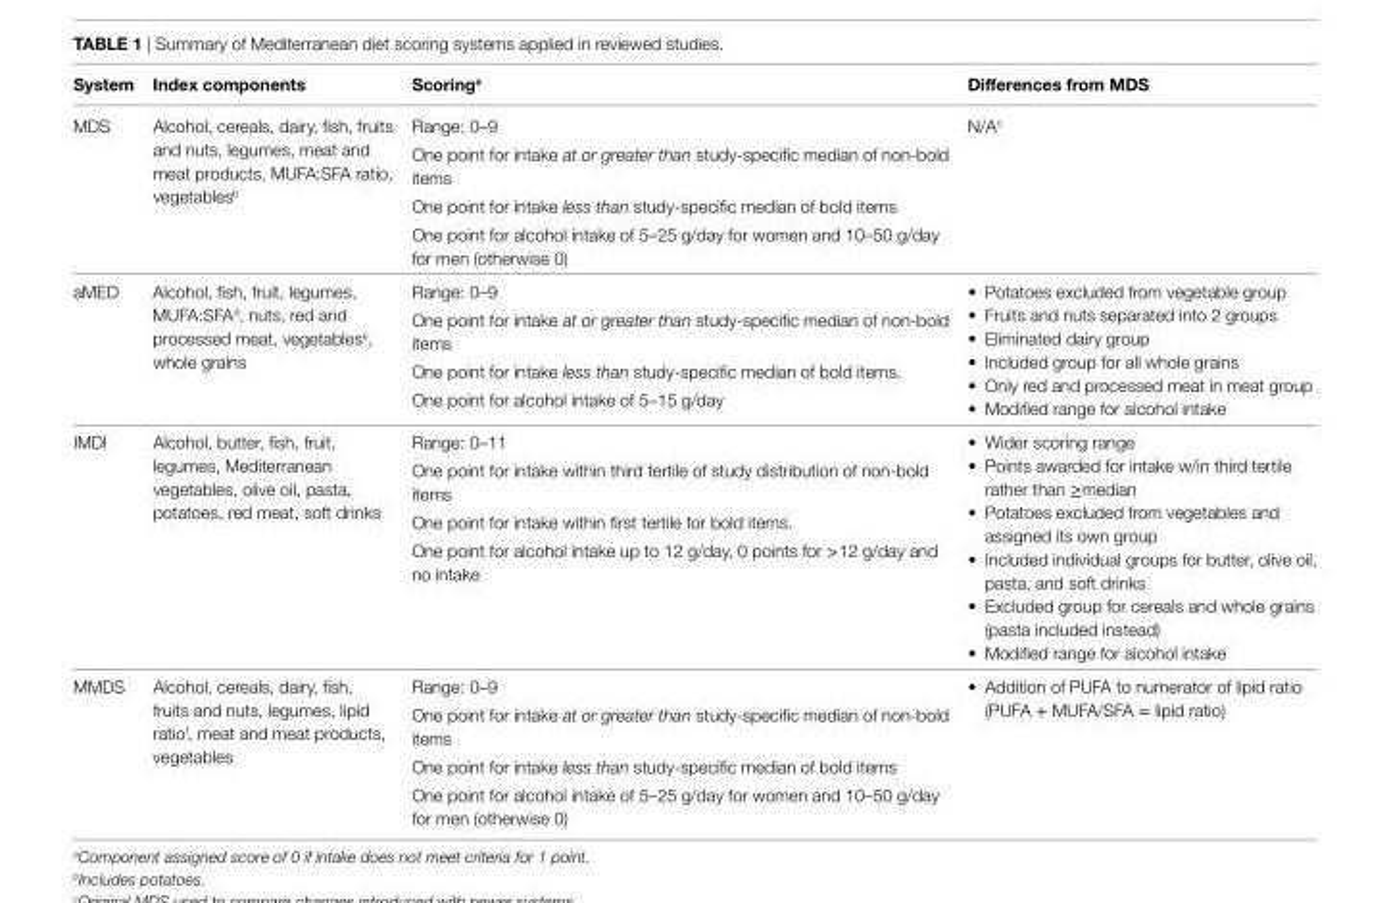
<table><thead><tr><td>System</td><td>index components</td><td>Scoring<sup>a</sup></td><td>Differences from MDS</td></tr></thead><tbody><tr><td rowspan="4">MDS</td><td rowspan="4">Alcohol, cereals, dairy, fish, fruits and nuts, legumes, meat and meat products, MUFA:SFA ratio, vegetables<sup>b</sup></td><td>Range: 0–9</td><td rowspan="4">N/A<sup>c</sup></td></tr><tr><td>One point for intake at or greater than study-specific median of non-bold items</td></tr><tr><td>One point for intake less than study-specific median of bold items</td></tr><tr><td>One point for alcohol intake of 5–25 g/day for women and 10–50 g/day for men (otherwise 0)</td></tr><tr><td rowspan="4">aMED</td><td rowspan="4">Alcohol, fish, fruit, legumes, MUFA:SFA<sup>d</sup>, nuts, red and processed meat, vegetables<sup>e</sup>, whole grains</td><td>Range: 0–9</td><td rowspan="4">• Potatoes excluded from vegetable group • Fruits and nuts separated into 2 groups • Eliminated dairy group • Included group for all whole grains • Only red and processed meat in meat group • Modified range for alcohol intake</td></tr><tr><td>One point for intake at or greater than study-specific median of non-bold items</td></tr><tr><td>One point for intake less than study-specific median of bold items.</td></tr><tr><td>One point for alcohol intake of 5–15 g/day</td></tr><tr><td rowspan="4">IMDI</td><td rowspan="4">Alcohol, butter, fish, fruit, legumes, Mediterranean vegetables, olive oil, pasta, potatoes, red meat, soft drinks</td><td>Range: 0–11</td><td rowspan="4">• Wider scoring range • Points awarded for intake w/in third tertile rather than ≥median • Potatoes excluded from vegetables and assigned its own group • Included individual groups for butter, olive oil, pasta, and soft drinks • Excluded group for cereals and whole grains (pasta included instead) • Modified range for alcohol intake</td></tr><tr><td>One point for intake within third tertile of study distribution of non-bold items</td></tr><tr><td>One point for intake within first tertile for bold items.</td></tr><tr><td>One point for alcohol intake up to 12 g/day, 0 points for &gt;12 g/day and no intake</td></tr><tr><td rowspan="4">MMDS</td><td rowspan="4">Alcohol, cereals, dairy, fish, fruits and nuts, legumes, lipid ratio<sup>f</sup>, meat and meat products, vegetables</td><td>Range: 0–9</td><td rowspan="4">• Addition of PUFA to numerator of lipid ratio (PUFA + MUFA/SFA = lipid ratio)</td></tr><tr><td>One point for intake at or greater than study-specific median of non-bold items</td></tr><tr><td>One point for intake less than study-specific median of bold items</td></tr><tr><td>One point for alcohol intake of 5–25 g/day for women and 10–50 g/day for men (otherwise 0)</td></tr></tbody></table>